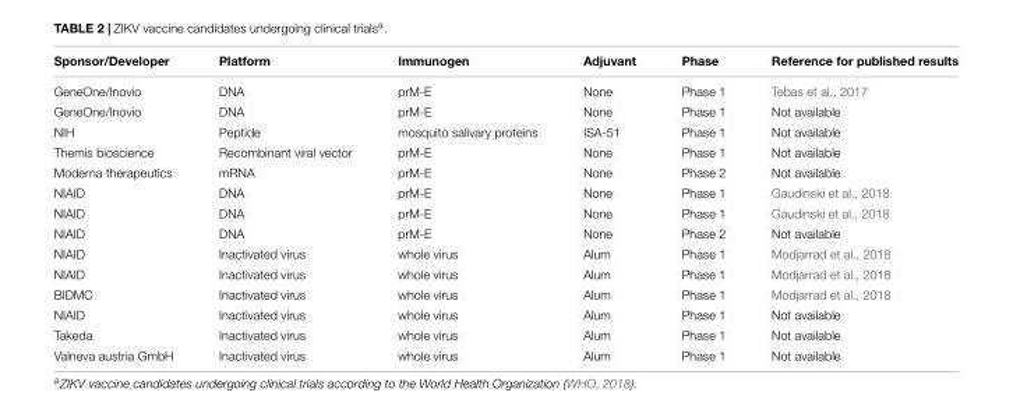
<table><thead><tr><td>Sponsor/Developer</td><td>Platform</td><td>Immunogen</td><td>Adjuvant</td><td>Phase</td><td>Reference for published results</td></tr></thead><tbody><tr><td>GeneOne/Inovio</td><td>DNA</td><td>prM-E</td><td>None</td><td>Phase 1</td><td>Tebas et al., 2017</td></tr><tr><td>GeneOne/Inovio</td><td>DNA</td><td>prM-E</td><td>None</td><td>Phase 1</td><td>Not available</td></tr><tr><td>NIH</td><td>Peptide</td><td>mosquito salivary proteins</td><td>ISA-51</td><td>Phase 1</td><td>Not available</td></tr><tr><td>Themis bioscience</td><td>Recombinant viral vector</td><td>prM-E</td><td>None</td><td>Phase 1</td><td>Not available</td></tr><tr><td>Moderna therapeutics</td><td>mRNA</td><td>prM-E</td><td>None</td><td>Phase 2</td><td>Not available</td></tr><tr><td>NIAID</td><td>DNA</td><td>prM-E</td><td>None</td><td>Phase 1</td><td>Gaudinski et al., 2018</td></tr><tr><td>NIAID</td><td>DNA</td><td>prM-E</td><td>None</td><td>Phase 1</td><td>Gaudinski et al., 2018</td></tr><tr><td>NIAID</td><td>DNA</td><td>prM-E</td><td>None</td><td>Phase 2</td><td>Not available</td></tr><tr><td>NIAID</td><td>Inactivated virus</td><td>whole virus</td><td>Alum</td><td>Phase 1</td><td>Modjarrad et al., 2018</td></tr><tr><td>NIAID</td><td>Inactivated virus</td><td>whole virus</td><td>Alum</td><td>Phase 1</td><td>Modjarrad et al., 2018</td></tr><tr><td>BIDMC</td><td>Inactivated virus</td><td>whole virus</td><td>Alum</td><td>Phase 1</td><td>Modjarrad et al., 2018</td></tr><tr><td>NIAID</td><td>Inactivated virus</td><td>whole virus</td><td>Alum</td><td>Phase 1</td><td>Not available</td></tr><tr><td>Takeda</td><td>Inactivated virus</td><td>whole virus</td><td>Alum</td><td>Phase 1</td><td>Not available</td></tr><tr><td>Valneva austria GmbH</td><td>Inactivated virus</td><td>whole virus</td><td>Alum</td><td>Phase 1</td><td>Not available</td></tr></tbody></table>